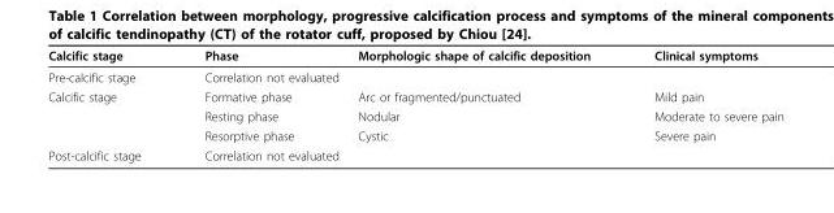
<table><thead><tr><td>Calcific stage</td><td>Phase</td><td>Morphologic shape of calcific deposition</td><td>Clinical symptoms</td></tr></thead><tbody><tr><td>Pre-calcific stage</td><td colspan="3">Correlation not evaluated</td></tr><tr><td rowspan="3">Calcific stage</td><td>Formative phase</td><td>Arc or fragmented/punctuated</td><td>Mild pain</td></tr><tr><td>Resting phase</td><td>Nodular</td><td>Moderate to severe pain</td></tr><tr><td>Resorptive phase</td><td>Cystic</td><td>Severe pain</td></tr><tr><td>Post-calcific stage</td><td colspan="3">Correlation not evaluated</td></tr></tbody></table>